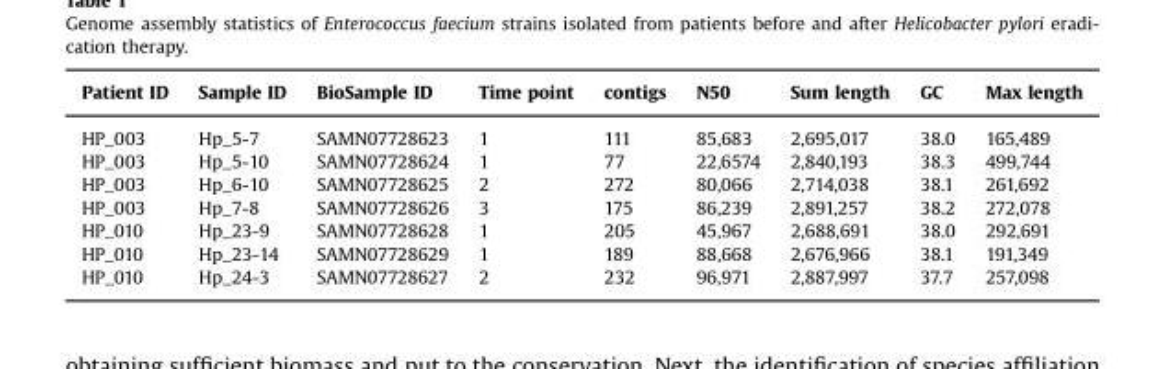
<table><thead><tr><td>Patient ID</td><td>Sample ID</td><td>BioSample ID</td><td>Time point</td><td>contigs</td><td>N50</td><td>Sum length</td><td>GC</td><td>Max length</td></tr></thead><tbody><tr><td>HP_003</td><td>Hp_5-7</td><td>SAMN07728623</td><td>1</td><td>111</td><td>85,683</td><td>2,695,017</td><td>38.0</td><td>165,489</td></tr><tr><td>HP_003</td><td>Hp_5-10</td><td>SAMN07728624</td><td>1</td><td>77</td><td>22,6574</td><td>2,840,193</td><td>38.3</td><td>499,744</td></tr><tr><td>HP_003</td><td>Hp_6-10</td><td>SAMN07728625</td><td>2</td><td>272</td><td>80,066</td><td>2,714,038</td><td>38.1</td><td>261,692</td></tr><tr><td>HP_003</td><td>Hp_7-8</td><td>SAMN07728626</td><td>3</td><td>175</td><td>86,239</td><td>2,891,257</td><td>38.2</td><td>272,078</td></tr><tr><td>HP_010</td><td>Hp_23-9</td><td>SAMN07728628</td><td>1</td><td>205</td><td>45,967</td><td>2,688,691</td><td>38.0</td><td>292,691</td></tr><tr><td>HP_010</td><td>Hp_23-14</td><td>SAMN07728629</td><td>1</td><td>189</td><td>88,668</td><td>2,676,966</td><td>38.1</td><td>191,349</td></tr><tr><td>HP_010</td><td>Hp_24-3</td><td>SAMN07728627</td><td>2</td><td>232</td><td>96,971</td><td>2,887,997</td><td>37.7</td><td>257,098</td></tr></tbody></table>